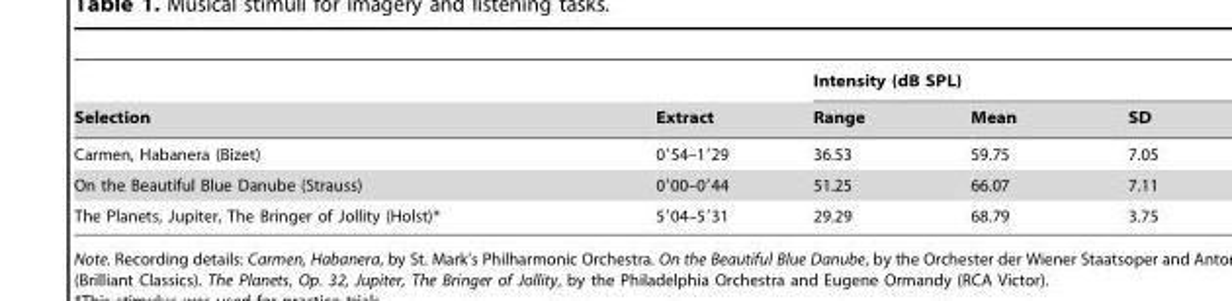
<table><thead><tr><td rowspan="2">Selection</td><td rowspan="2">Extract</td><td colspan="3">Intensity (dB SPL)</td></tr><tr><td>Range</td><td>Mean</td><td>SD</td></tr></thead><tbody><tr><td>Carmen, Habanera (Bizet)</td><td>0′54–1′29</td><td>36.53</td><td>59.75</td><td>7.05</td></tr><tr><td>On the Beautiful Blue Danube (Strauss)</td><td>0′00–0′44</td><td>51.25</td><td>66.07</td><td>7.11</td></tr><tr><td>The Planets, Jupiter, The Bringer of Jollity (Holst)*</td><td>5′04–5′31</td><td>29.29</td><td>68.79</td><td>3.75</td></tr></tbody></table>